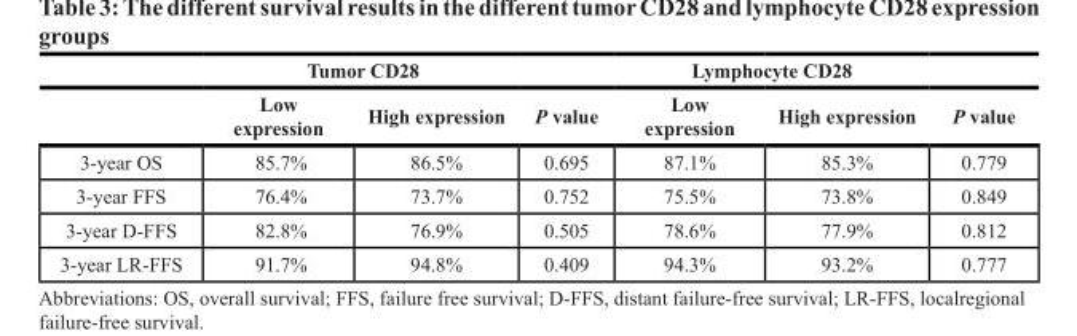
<table><thead><tr><td rowspan="2"></td><td colspan="2">Tumor CD28</td><td rowspan="2">P value</td><td colspan="2">Lymphocyte CD28</td><td rowspan="2">P value</td></tr><tr><td>Low expression</td><td>High expression</td><td>Low expression</td><td>High expression</td></tr></thead><tbody><tr><td>3-year OS</td><td>85.7%</td><td>86.5%</td><td>0.695</td><td>87.1%</td><td>85.3%</td><td>0.779</td></tr><tr><td>3-year FFS</td><td>76.4%</td><td>73.7%</td><td>0.752</td><td>75.5%</td><td>73.8%</td><td>0.849</td></tr><tr><td>3-year D-FFS</td><td>82.8%</td><td>76.9%</td><td>0.505</td><td>78.6%</td><td>77.9%</td><td>0.812</td></tr><tr><td>3-year LR-FFS</td><td>91.7%</td><td>94.8%</td><td>0.409</td><td>94.3%</td><td>93.2%</td><td>0.777</td></tr></tbody></table>